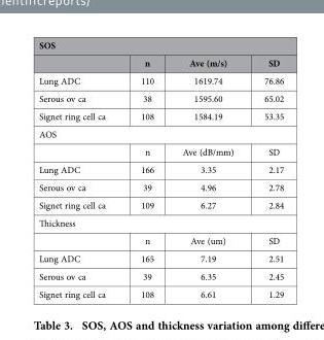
<table><thead><tr><td colspan="4">SOS</td></tr><tr><td></td><td>n</td><td>Ave (m/s)</td><td>SD</td></tr></thead><tbody><tr><td>Lung ADC</td><td>110</td><td>1619.74</td><td>76.86</td></tr><tr><td>Serous ov ca</td><td>38</td><td>1595.60</td><td>65.02</td></tr><tr><td>Signet ring cell ca</td><td>108</td><td>1584.19</td><td>53.35</td></tr><tr><td colspan="4">AOS</td></tr><tr><td></td><td>n</td><td>Ave (dB/mm)</td><td>SD</td></tr><tr><td>Lung ADC</td><td>166</td><td>3.35</td><td>2.17</td></tr><tr><td>Serous ov ca</td><td>39</td><td>4.96</td><td>2.78</td></tr><tr><td>Signet ring cell ca</td><td>109</td><td>6.27</td><td>2.84</td></tr><tr><td colspan="4">Thickness</td></tr><tr><td></td><td>n</td><td>Ave (um)</td><td>SD</td></tr><tr><td>Lung ADC</td><td>165</td><td>7.19</td><td>2.51</td></tr><tr><td>Serous ov ca</td><td>39</td><td>6.35</td><td>2.45</td></tr><tr><td>Signet ring cell ca</td><td>108</td><td>6.61</td><td>1.29</td></tr></tbody></table>